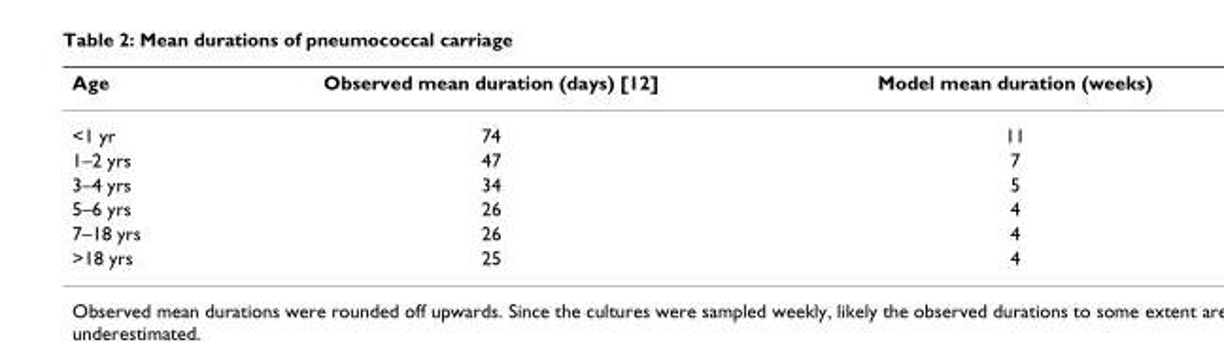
<table><thead><tr><td>Age</td><td>Observed mean duration (days) [12]</td><td>Model mean duration (weeks)</td></tr></thead><tbody><tr><td>&lt;1 yr</td><td>74</td><td>11</td></tr><tr><td>1–2 yrs</td><td>47</td><td>7</td></tr><tr><td>3–4 yrs</td><td>34</td><td>5</td></tr><tr><td>5–6 yrs</td><td>26</td><td>4</td></tr><tr><td>7–18 yrs</td><td>26</td><td>4</td></tr><tr><td>&gt;18 yrs</td><td>25</td><td>4</td></tr></tbody></table>